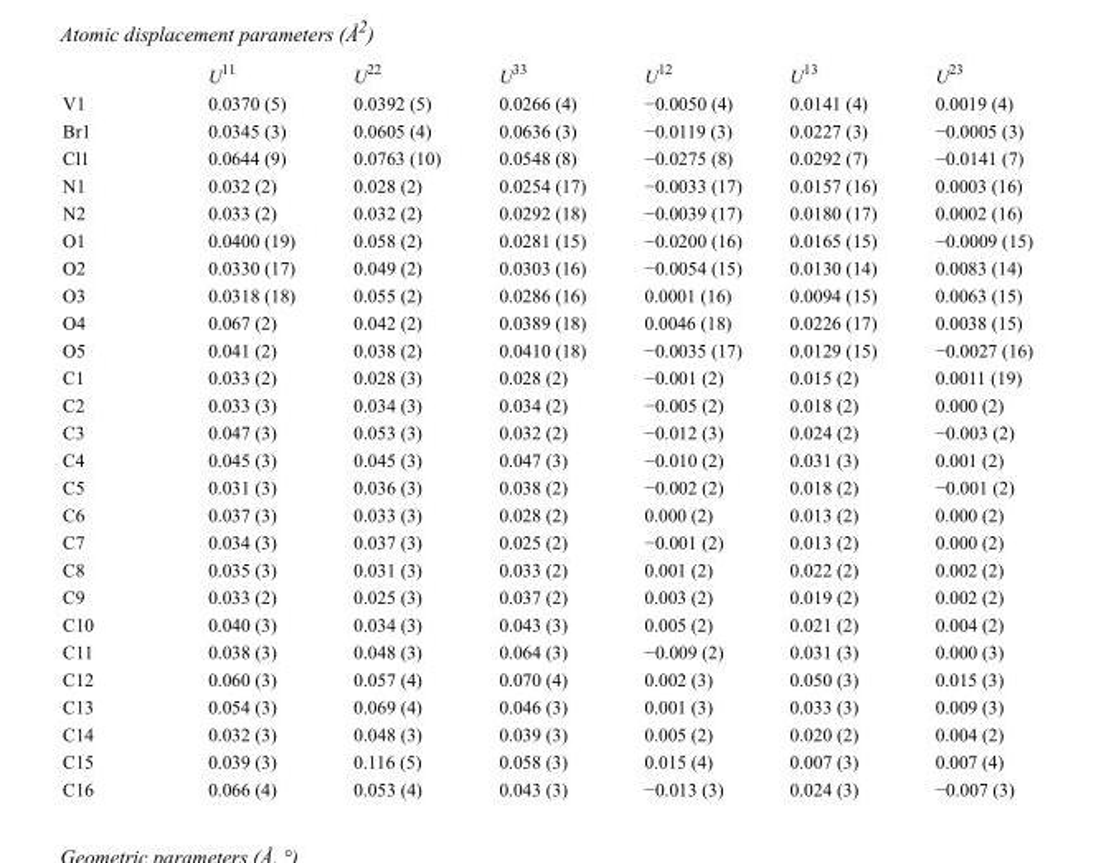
<table><thead><tr><td></td><td>U<sup>11</sup></td><td>U<sup>22</sup></td><td>U<sup>33</sup></td><td>U<sup>12</sup></td><td>U<sup>13</sup></td><td>U<sup>23</sup></td></tr></thead><tbody><tr><td>V1</td><td>0.0370 (5)</td><td>0.0392 (5)</td><td>0.0266 (4)</td><td>−0.0050 (4)</td><td>0.0141 (4)</td><td>0.0019 (4)</td></tr><tr><td>Br1</td><td>0.0345 (3)</td><td>0.0605 (4)</td><td>0.0636 (3)</td><td>−0.0119 (3)</td><td>0.0227 (3)</td><td>−0.0005 (3)</td></tr><tr><td>Cl1</td><td>0.0644 (9)</td><td>0.0763 (10)</td><td>0.0548 (8)</td><td>−0.0275 (8)</td><td>0.0292 (7)</td><td>−0.0141 (7)</td></tr><tr><td>N1</td><td>0.032 (2)</td><td>0.028 (2)</td><td>0.0254 (17)</td><td>−0.0033 (17)</td><td>0.0157 (16)</td><td>0.0003 (16)</td></tr><tr><td>N2</td><td>0.033 (2)</td><td>0.032 (2)</td><td>0.0292 (18)</td><td>−0.0039 (17)</td><td>0.0180 (17)</td><td>0.0002 (16)</td></tr><tr><td>O1</td><td>0.0400 (19)</td><td>0.058 (2)</td><td>0.0281 (15)</td><td>−0.0200 (16)</td><td>0.0165 (15)</td><td>−0.0009 (15)</td></tr><tr><td>O2</td><td>0.0330 (17)</td><td>0.049 (2)</td><td>0.0303 (16)</td><td>−0.0054 (15)</td><td>0.0130 (14)</td><td>0.0083 (14)</td></tr><tr><td>O3</td><td>0.0318 (18)</td><td>0.055 (2)</td><td>0.0286 (16)</td><td>0.0001 (16)</td><td>0.0094 (15)</td><td>0.0063 (15)</td></tr><tr><td>O4</td><td>0.067 (2)</td><td>0.042 (2)</td><td>0.0389 (18)</td><td>0.0046 (18)</td><td>0.0226 (17)</td><td>0.0038 (15)</td></tr><tr><td>O5</td><td>0.041 (2)</td><td>0.038 (2)</td><td>0.0410 (18)</td><td>−0.0035 (17)</td><td>0.0129 (15)</td><td>−0.0027 (16)</td></tr><tr><td>C1</td><td>0.033 (2)</td><td>0.028 (3)</td><td>0.028 (2)</td><td>−0.001 (2)</td><td>0.015 (2)</td><td>0.0011 (19)</td></tr><tr><td>C2</td><td>0.033 (3)</td><td>0.034 (3)</td><td>0.034 (2)</td><td>−0.005 (2)</td><td>0.018 (2)</td><td>0.000 (2)</td></tr><tr><td>C3</td><td>0.047 (3)</td><td>0.053 (3)</td><td>0.032 (2)</td><td>−0.012 (3)</td><td>0.024 (2)</td><td>−0.003 (2)</td></tr><tr><td>C4</td><td>0.045 (3)</td><td>0.045 (3)</td><td>0.047 (3)</td><td>−0.010 (2)</td><td>0.031 (3)</td><td>0.001 (2)</td></tr><tr><td>C5</td><td>0.031 (3)</td><td>0.036 (3)</td><td>0.038 (2)</td><td>−0.002 (2)</td><td>0.018 (2)</td><td>−0.001 (2)</td></tr><tr><td>C6</td><td>0.037 (3)</td><td>0.033 (3)</td><td>0.028 (2)</td><td>0.000 (2)</td><td>0.013 (2)</td><td>0.000 (2)</td></tr><tr><td>C7</td><td>0.034 (3)</td><td>0.037 (3)</td><td>0.025 (2)</td><td>−0.001 (2)</td><td>0.013 (2)</td><td>0.000 (2)</td></tr><tr><td>C8</td><td>0.035 (3)</td><td>0.031 (3)</td><td>0.033 (2)</td><td>0.001 (2)</td><td>0.022 (2)</td><td>0.002 (2)</td></tr><tr><td>C9</td><td>0.033 (2)</td><td>0.025 (3)</td><td>0.037 (2)</td><td>0.003 (2)</td><td>0.019 (2)</td><td>0.002 (2)</td></tr><tr><td>C10</td><td>0.040 (3)</td><td>0.034 (3)</td><td>0.043 (3)</td><td>0.005 (2)</td><td>0.021 (2)</td><td>0.004 (2)</td></tr><tr><td>C11</td><td>0.038 (3)</td><td>0.048 (3)</td><td>0.064 (3)</td><td>−0.009 (2)</td><td>0.031 (3)</td><td>0.000 (3)</td></tr><tr><td>C12</td><td>0.060 (3)</td><td>0.057 (4)</td><td>0.070 (4)</td><td>0.002 (3)</td><td>0.050 (3)</td><td>0.015 (3)</td></tr><tr><td>C13</td><td>0.054 (3)</td><td>0.069 (4)</td><td>0.046 (3)</td><td>0.001 (3)</td><td>0.033 (3)</td><td>0.009 (3)</td></tr><tr><td>C14</td><td>0.032 (3)</td><td>0.048 (3)</td><td>0.039 (3)</td><td>0.005 (2)</td><td>0.020 (2)</td><td>0.004 (2)</td></tr><tr><td>C15</td><td>0.039 (3)</td><td>0.116 (5)</td><td>0.058 (3)</td><td>0.015 (4)</td><td>0.007 (3)</td><td>0.007 (4)</td></tr><tr><td>C16</td><td>0.066 (4)</td><td>0.053 (4)</td><td>0.043 (3)</td><td>−0.013 (3)</td><td>0.024 (3)</td><td>−0.007 (3)</td></tr></tbody></table>